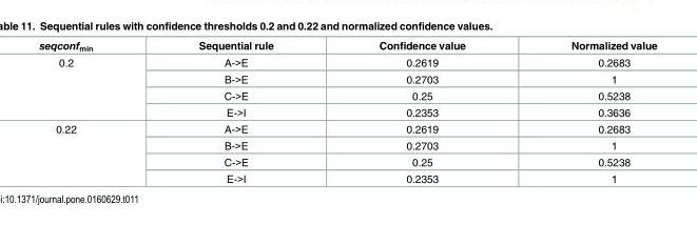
<table><thead><tr><td>seqconf<sub>min</sub></td><td>Sequential rule</td><td>Confidence value</td><td>Normalized value</td></tr></thead><tbody><tr><td rowspan="4">0.2</td><td>A-&gt;E</td><td>0.2619</td><td>0.2683</td></tr><tr><td>B-&gt;E</td><td>0.2703</td><td>1</td></tr><tr><td>C-&gt;E</td><td>0.25</td><td>0.5238</td></tr><tr><td>E-&gt;I</td><td>0.2353</td><td>0.3636</td></tr><tr><td rowspan="4">0.22</td><td>A-&gt;E</td><td>0.2619</td><td>0.2683</td></tr><tr><td>B-&gt;E</td><td>0.2703</td><td>1</td></tr><tr><td>C-&gt;E</td><td>0.25</td><td>0.5238</td></tr><tr><td>E-&gt;I</td><td>0.2353</td><td>1</td></tr></tbody></table>